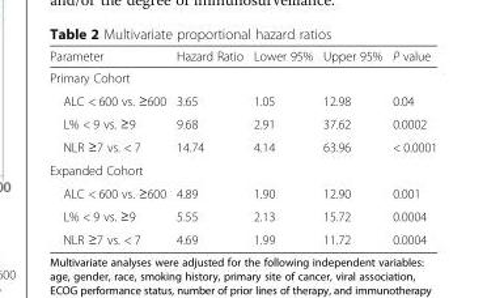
<table><thead><tr><td>Parameter</td><td>Hazard Ratio</td><td>Lower 95%</td><td>Upper 95%</td><td>P value</td></tr></thead><tbody><tr><td colspan="5">Primary Cohort</td></tr><tr><td>ALC &lt; 600 vs. ≥600</td><td>3.65</td><td>1.05</td><td>12.98</td><td>0.04</td></tr><tr><td>L% &lt; 9 vs. ≥9</td><td>9.68</td><td>2.91</td><td>37.62</td><td>0.0002</td></tr><tr><td>NLR ≥7 vs. &lt; 7</td><td>14.74</td><td>4.14</td><td>63.96</td><td>&lt; 0.0001</td></tr><tr><td colspan="5">Expanded Cohort</td></tr><tr><td>ALC &lt; 600 vs. ≥600</td><td>4.89</td><td>1.90</td><td>12.90</td><td>0.001</td></tr><tr><td>L% &lt; 9 vs. ≥9</td><td>5.55</td><td>2.13</td><td>15.72</td><td>0.0004</td></tr><tr><td>NLR ≥7 vs. &lt; 7</td><td>4.69</td><td>1.99</td><td>11.72</td><td>0.0004</td></tr></tbody></table>